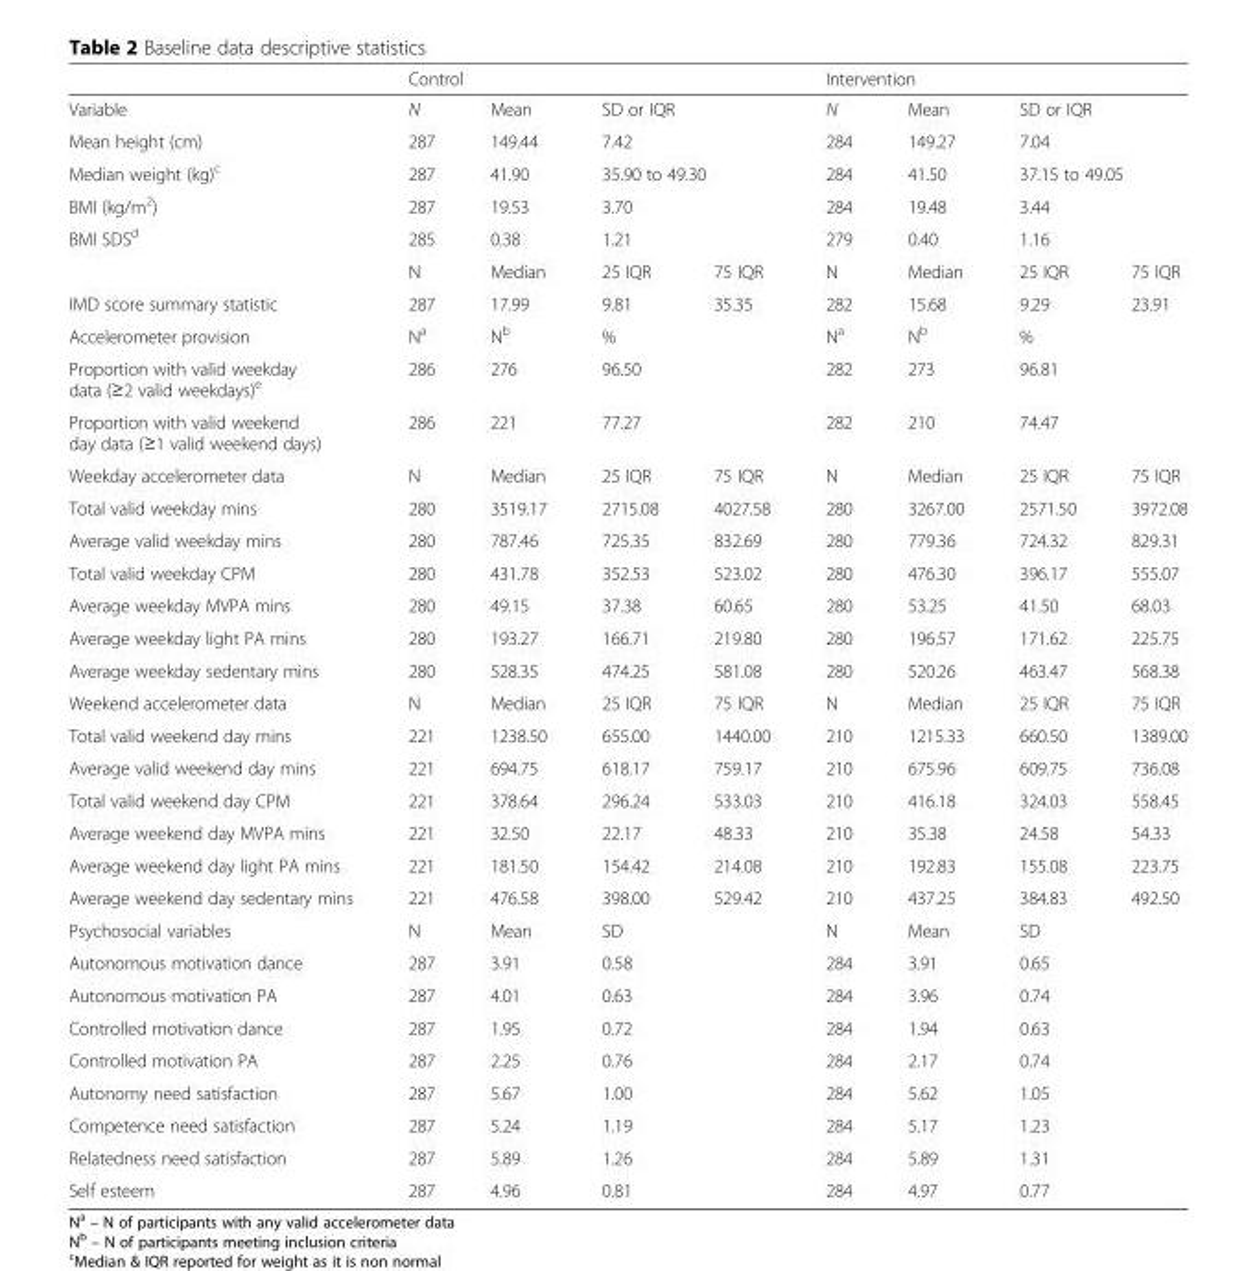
<table><thead><tr><td></td><td colspan="4">Control</td><td colspan="4">Intervention</td></tr></thead><tbody><tr><td>Variable</td><td>N</td><td>Mean</td><td colspan="2">SD or IQR</td><td>N</td><td>Mean</td><td colspan="2">SD or IQR</td></tr><tr><td>Mean height (cm)</td><td>287</td><td>149.44</td><td colspan="2">7.42</td><td>284</td><td>149.27</td><td>7.04</td><td></td></tr><tr><td>Median weight (kg)<sup>c</sup></td><td>287</td><td>41.90</td><td colspan="2">35.90 to 49.30</td><td>284</td><td>41.50</td><td colspan="2">37.15 to 49.05</td></tr><tr><td>BMI (kg/m<sup>2</sup>)</td><td>287</td><td>19.53</td><td colspan="2">3.70</td><td>284</td><td>19.48</td><td colspan="2">3.44</td></tr><tr><td rowspan="2">BMI SDS<sup>d</sup></td><td>285</td><td>0.38</td><td colspan="2">1.21</td><td>279</td><td>0.40</td><td colspan="2">1.16</td></tr><tr><td>N</td><td>Median</td><td>25 IQR</td><td>75 IQR</td><td>N</td><td>Median</td><td>25 IQR</td><td>75 IQR</td></tr><tr><td>IMD score summary statistic</td><td>287</td><td>17.99</td><td>9.81</td><td>35.35</td><td>282</td><td>15.68</td><td>9.29</td><td>23.91</td></tr><tr><td>Accelerometer provision</td><td>N<sup>a</sup></td><td>N<sup>b</sup></td><td>%</td><td></td><td>N<sup>a</sup></td><td>N<sup>b</sup></td><td>%</td><td></td></tr><tr><td>Proportion with valid weekday data (≥2 valid weekdays)<sup>e</sup></td><td>286</td><td>276</td><td>96.50</td><td></td><td>282</td><td>273</td><td>96.81</td><td></td></tr><tr><td>Proportion with valid weekend day data (≥1 valid weekend days)</td><td>286</td><td>221</td><td>77.27</td><td></td><td>282</td><td>210</td><td>74.47</td><td></td></tr><tr><td>Weekday accelerometer data</td><td>N</td><td>Median</td><td>25 IQR</td><td>75 IQR</td><td>N</td><td>Median</td><td>25 IQR</td><td>75 IQR</td></tr><tr><td>Total valid weekday mins</td><td>280</td><td>3519.17</td><td>2715.08</td><td>4027.58</td><td>280</td><td>3267.00</td><td>2571.50</td><td>3972.08</td></tr><tr><td>Average valid weekday mins</td><td>280</td><td>787.46</td><td>725.35</td><td>832.69</td><td>280</td><td>779.36</td><td>724.32</td><td>829.31</td></tr><tr><td>Total valid weekday CPM</td><td>280</td><td>431.78</td><td>352.53</td><td>523.02</td><td>280</td><td>476.30</td><td>396.17</td><td>555.07</td></tr><tr><td>Average weekday MVPA mins</td><td>280</td><td>49.15</td><td>37.38</td><td>60.65</td><td>280</td><td>53.25</td><td>41.50</td><td>68.03</td></tr><tr><td>Average weekday light PA mins</td><td>280</td><td>193.27</td><td>166.71</td><td>219.80</td><td>280</td><td>196.57</td><td>171.62</td><td>225.75</td></tr><tr><td>Average weekday sedentary mins</td><td>280</td><td>528.35</td><td>474.25</td><td>581.08</td><td>280</td><td>520.26</td><td>463.47</td><td>568.38</td></tr><tr><td>Weekend accelerometer data</td><td>N</td><td>Median</td><td>25 IQR</td><td>75 IQR</td><td>N</td><td>Median</td><td>25 IQR</td><td>75 IQR</td></tr><tr><td>Total valid weekend day mins</td><td>221</td><td>1238.50</td><td>655.00</td><td>1440.00</td><td>210</td><td>1215.33</td><td>660.50</td><td>1389.00</td></tr><tr><td>Average valid weekend day mins</td><td>221</td><td>694.75</td><td>618.17</td><td>759.17</td><td>210</td><td>675.96</td><td>609.75</td><td>736.08</td></tr><tr><td>Total valid weekend day CPM</td><td>221</td><td>378.64</td><td>296.24</td><td>533.03</td><td>210</td><td>416.18</td><td>324.03</td><td>558.45</td></tr><tr><td>Average weekend day MVPA mins</td><td>221</td><td>32.50</td><td>22.17</td><td>48.33</td><td>210</td><td>35.38</td><td>24.58</td><td>54.33</td></tr><tr><td>Average weekend day light PA mins</td><td>221</td><td>181.50</td><td>154.42</td><td>214.08</td><td>210</td><td>192.83</td><td>155.08</td><td>223.75</td></tr><tr><td>Average weekend day sedentary mins</td><td>221</td><td>476.58</td><td>398.00</td><td>529.42</td><td>210</td><td>437.25</td><td>384.83</td><td>492.50</td></tr><tr><td>Psychosocial variables</td><td>N</td><td>Mean</td><td colspan="2">SD</td><td>N</td><td>Mean</td><td colspan="2">SD</td></tr><tr><td>Autonomous motivation dance</td><td>287</td><td>3.91</td><td colspan="2">0.58</td><td>284</td><td>3.91</td><td colspan="2">0.65</td></tr><tr><td>Autonomous motivation PA</td><td>287</td><td>4.01</td><td colspan="2">0.63</td><td>284</td><td>3.96</td><td colspan="2">0.74</td></tr><tr><td>Controlled motivation dance</td><td>287</td><td>1.95</td><td colspan="2">0.72</td><td>284</td><td>1.94</td><td colspan="2">0.63</td></tr><tr><td>Controlled motivation PA</td><td>287</td><td>2.25</td><td colspan="2">0.76</td><td>284</td><td>2.17</td><td colspan="2">0.74</td></tr><tr><td>Autonomy need satisfaction</td><td>287</td><td>5.67</td><td colspan="2">1.00</td><td>284</td><td>5.62</td><td colspan="2">1.05</td></tr><tr><td>Competence need satisfaction</td><td>287</td><td>5.24</td><td colspan="2">1.19</td><td>284</td><td>5.17</td><td colspan="2">1.23</td></tr><tr><td>Relatedness need satisfaction</td><td>287</td><td>5.89</td><td colspan="2">1.26</td><td>284</td><td>5.89</td><td colspan="2">1.31</td></tr><tr><td>Self esteem</td><td>287</td><td>4.96</td><td colspan="2">0.81</td><td>284</td><td>4.97</td><td colspan="2">0.77</td></tr></tbody></table>